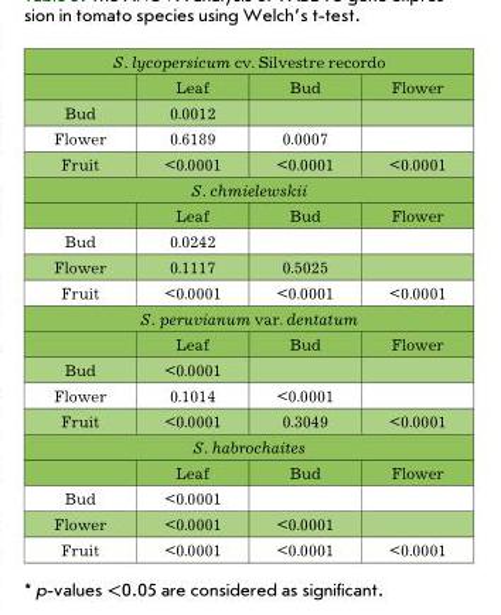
<table><tbody><tr><td colspan="4">S. lycopersicum cv. Silvestre recordo</td></tr><tr><td></td><td>Leaf</td><td>Bud</td><td>Flower</td></tr><tr><td>Bud</td><td>0.0012</td><td></td><td></td></tr><tr><td>Flower</td><td>0.6189</td><td>0.0007</td><td></td></tr><tr><td>Fruit</td><td>&lt;0.0001</td><td>&lt;0.0001</td><td>&lt;0.0001</td></tr><tr><td colspan="4">S. chmielewskii</td></tr><tr><td></td><td>Leaf</td><td>Bud</td><td>Flower</td></tr><tr><td>Bud</td><td>0.0242</td><td></td><td></td></tr><tr><td>Flower</td><td>0.1117</td><td>0.5025</td><td></td></tr><tr><td>Fruit</td><td>&lt;0.0001</td><td>&lt;0.0001</td><td>&lt;0.0001</td></tr><tr><td colspan="4">S. peruvianum var. dentatum</td></tr><tr><td></td><td>Leaf</td><td>Bud</td><td>Flower</td></tr><tr><td>Bud</td><td>&lt;0.0001</td><td></td><td></td></tr><tr><td>Flower</td><td>0.1014</td><td>&lt;0.0001</td><td></td></tr><tr><td>Fruit</td><td>&lt;0.0001</td><td>0.3049</td><td>&lt;0.0001</td></tr><tr><td colspan="4">S. habrochaites</td></tr><tr><td></td><td>Leaf</td><td>Bud</td><td>Flower</td></tr><tr><td>Bud</td><td>&lt;0.0001</td><td></td><td></td></tr><tr><td>Flower</td><td>&lt;0.0001</td><td>&lt;0.0001</td><td></td></tr><tr><td>Fruit</td><td>&lt;0.0001</td><td>&lt;0.0001</td><td>&lt;0.0001</td></tr></tbody></table>